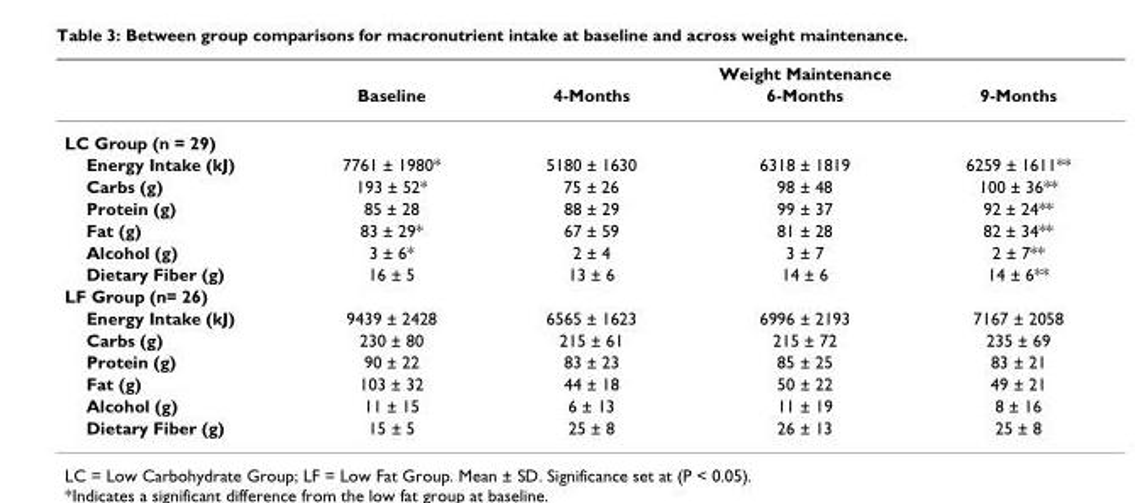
<table><thead><tr><td rowspan="2"></td><td rowspan="2">Baseline</td><td colspan="3">Weight Maintenance</td></tr><tr><td>4-Months</td><td>6-Months</td><td>9-Months</td></tr></thead><tbody><tr><td colspan="5">LC Group (n = 29)</td></tr><tr><td>Energy Intake (kJ)</td><td>7761 ± 1980*</td><td>5180 ± 1630</td><td>6318 ± 1819</td><td>6259 ± 1611**</td></tr><tr><td>Carbs (g)</td><td>193 ± 52*</td><td>75 ± 26</td><td>98 ± 48</td><td>100 ± 36**</td></tr><tr><td>Protein (g)</td><td>85 ± 28</td><td>88 ± 29</td><td>99 ± 37</td><td>92 ± 24**</td></tr><tr><td>Fat (g)</td><td>83 ± 29*</td><td>67 ± 59</td><td>81 ± 28</td><td>82 ± 34**</td></tr><tr><td>Alcohol (g)</td><td>3 ± 6*</td><td>2 ± 4</td><td>3 ± 7</td><td>2 ± 7**</td></tr><tr><td>Dietary Fiber (g)</td><td>16 ± 5</td><td>13 ± 6</td><td>14 ± 6</td><td>14 ± 6**</td></tr><tr><td colspan="5">LF Group (n= 26)</td></tr><tr><td>Energy Intake (kJ)</td><td>9439 ± 2428</td><td>6565 ± 1623</td><td>6996 ± 2193</td><td>7167 ± 2058</td></tr><tr><td>Carbs (g)</td><td>230 ± 80</td><td>215 ± 61</td><td>215 ± 72</td><td>235 ± 69</td></tr><tr><td>Protein (g)</td><td>90 ± 22</td><td>83 ± 23</td><td>85 ± 25</td><td>83 ± 21</td></tr><tr><td>Fat (g)</td><td>103 ± 32</td><td>44 ± 18</td><td>50 ± 22</td><td>49 ± 21</td></tr><tr><td>Alcohol (g)</td><td>11 ± 15</td><td>6 ± 13</td><td>11 ± 19</td><td>8 ± 16</td></tr><tr><td>Dietary Fiber (g)</td><td>15 ± 5</td><td>25 ± 8</td><td>26 ± 13</td><td>25 ± 8</td></tr></tbody></table>